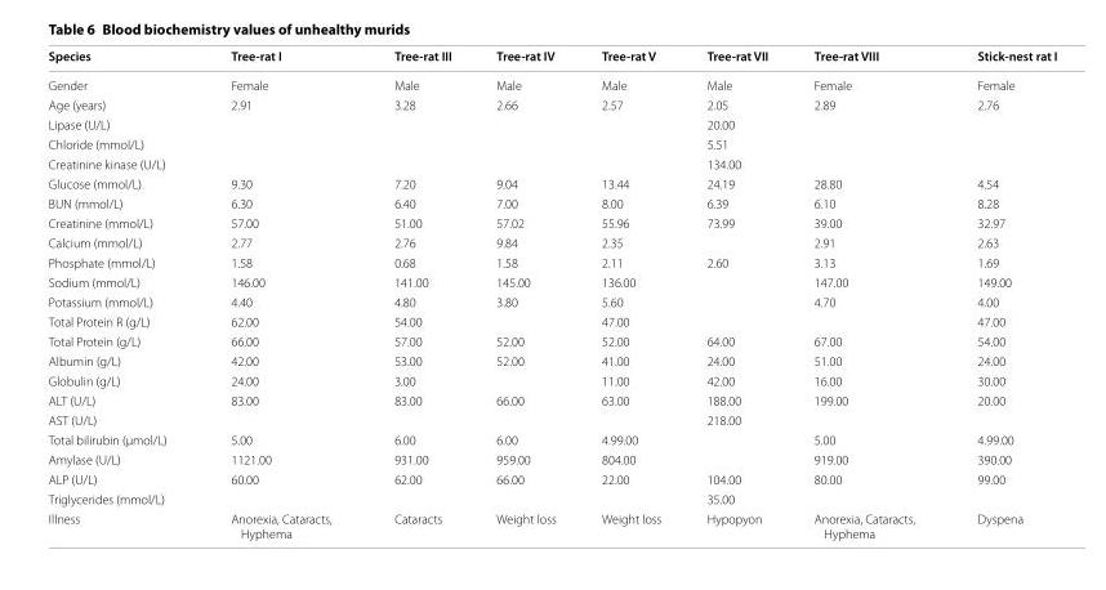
<table><thead><tr><td>Species</td><td>Tree-rat I</td><td>Tree-rat III</td><td>Tree-rat IV</td><td>Tree-rat V</td><td>Tree-rat VII</td><td>Tree-rat VIII</td><td>Stick-nest rat I</td></tr></thead><tbody><tr><td>Gender</td><td>Female</td><td>Male</td><td>Male</td><td>Male</td><td>Male</td><td>Female</td><td>Female</td></tr><tr><td>Age (years)</td><td>2.91</td><td>3.28</td><td>2.66</td><td>2.57</td><td>2.05</td><td>2.89</td><td>2.76</td></tr><tr><td>Lipase (U/L)</td><td></td><td></td><td></td><td></td><td>20.00</td><td></td><td></td></tr><tr><td>Chloride (mmol/L)</td><td></td><td></td><td></td><td></td><td>5.51</td><td></td><td></td></tr><tr><td>Creatinine kinase (U/L)</td><td></td><td></td><td></td><td></td><td>134.00</td><td></td><td></td></tr><tr><td>Glucose (mmol/L)</td><td>9.30</td><td>7.20</td><td>9.04</td><td>13.44</td><td>24.19</td><td>28.80</td><td>4.54</td></tr><tr><td>BUN (mmol/L)</td><td>6.30</td><td>6.40</td><td>7.00</td><td>8.00</td><td>6.39</td><td>6.10</td><td>8.28</td></tr><tr><td>Creatinine (mmol/L)</td><td>57.00</td><td>51.00</td><td>57.02</td><td>55.96</td><td>73.99</td><td>39.00</td><td>32.97</td></tr><tr><td>Calcium (mmol/L)</td><td>2.77</td><td>2.76</td><td>9.84</td><td>2.35</td><td></td><td>2.91</td><td>2.63</td></tr><tr><td>Phosphate (mmol/L)</td><td>1.58</td><td>0.68</td><td>1.58</td><td>2.11</td><td>2.60</td><td>3.13</td><td>1.69</td></tr><tr><td>Sodium (mmol/L)</td><td>146.00</td><td>141.00</td><td>145.00</td><td>136.00</td><td></td><td>147.00</td><td>149.00</td></tr><tr><td>Potassium (mmol/L)</td><td>4.40</td><td>4.80</td><td>3.80</td><td>5.60</td><td></td><td>4.70</td><td>4.00</td></tr><tr><td>Total Protein R (g/L)</td><td>62.00</td><td>54.00</td><td></td><td>47.00</td><td></td><td></td><td>47.00</td></tr><tr><td>Total Protein (g/L)</td><td>66.00</td><td>57.00</td><td>52.00</td><td>52.00</td><td>64.00</td><td>67.00</td><td>54.00</td></tr><tr><td>Albumin (g/L)</td><td>42.00</td><td>53.00</td><td>52.00</td><td>41.00</td><td>24.00</td><td>51.00</td><td>24.00</td></tr><tr><td>Globulin (g/L)</td><td>24.00</td><td>3.00</td><td></td><td>11.00</td><td>42.00</td><td>16.00</td><td>30.00</td></tr><tr><td>ALT (U/L)</td><td>83.00</td><td>83.00</td><td>66.00</td><td>63.00</td><td>188.00</td><td>199.00</td><td>20.00</td></tr><tr><td>AST (U/L)</td><td></td><td></td><td></td><td></td><td>218.00</td><td></td><td></td></tr><tr><td>Total bilirubin (μmol/L)</td><td>5.00</td><td>6.00</td><td>6.00</td><td>4.99.00</td><td></td><td>5.00</td><td>4.99.00</td></tr><tr><td>Amylase (U/L)</td><td>1121.00</td><td>931.00</td><td>959.00</td><td>804.00</td><td></td><td>919.00</td><td>390.00</td></tr><tr><td>ALP (U/L)</td><td>60.00</td><td>62.00</td><td>66.00</td><td>22.00</td><td>104.00</td><td>80.00</td><td>99.00</td></tr><tr><td>Triglycerides (mmol/L)</td><td></td><td></td><td></td><td></td><td>35.00</td><td></td><td></td></tr><tr><td>Illness</td><td>Anorexia, Cataracts, Hyphema</td><td>Cataracts</td><td>Weight loss</td><td>Weight loss</td><td>Hypopyon</td><td>Anorexia, Cataracts, Hyphema</td><td>Dyspena</td></tr></tbody></table>